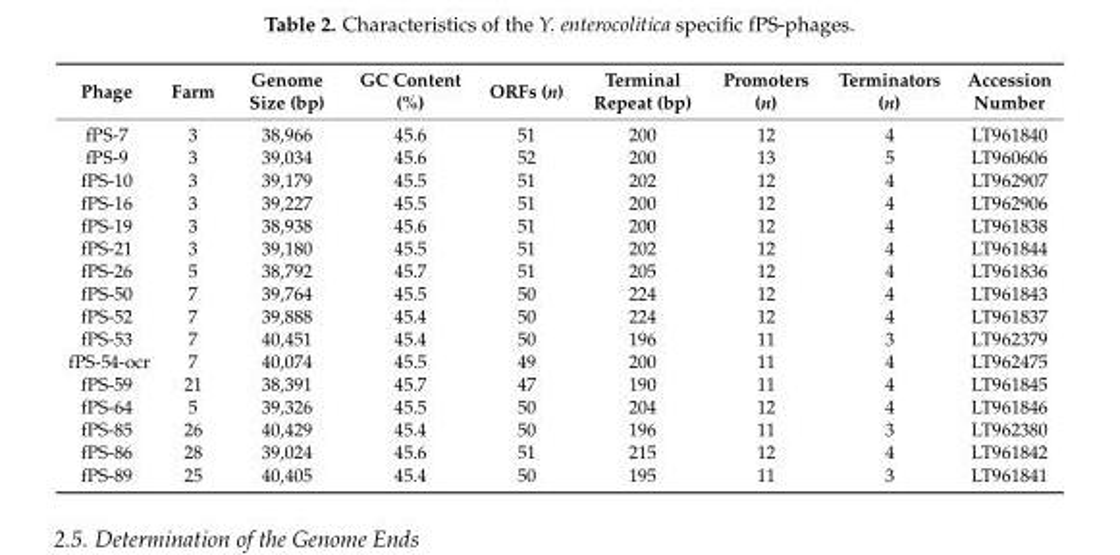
<table><thead><tr><td>Phage</td><td>Farm</td><td>Genome Size (bp)</td><td>GC Content (%)</td><td>ORFs (n)</td><td>Terminal Repeat (bp)</td><td>Promoters (n)</td><td>Terminators (n)</td><td>Accession Number</td></tr></thead><tbody><tr><td>fPS-7</td><td>3</td><td>38,966</td><td>45.6</td><td>51</td><td>200</td><td>12</td><td>4</td><td>LT961840</td></tr><tr><td>fPS-9</td><td>3</td><td>39,034</td><td>45.6</td><td>52</td><td>200</td><td>13</td><td>5</td><td>LT960606</td></tr><tr><td>fPS-10</td><td>3</td><td>39,179</td><td>45.5</td><td>51</td><td>202</td><td>12</td><td>4</td><td>LT962907</td></tr><tr><td>fPS-16</td><td>3</td><td>39,227</td><td>45.5</td><td>51</td><td>200</td><td>12</td><td>4</td><td>LT962906</td></tr><tr><td>fPS-19</td><td>3</td><td>38,938</td><td>45.6</td><td>51</td><td>200</td><td>12</td><td>4</td><td>LT961838</td></tr><tr><td>fPS-21</td><td>3</td><td>39,180</td><td>45.5</td><td>51</td><td>202</td><td>12</td><td>4</td><td>LT961844</td></tr><tr><td>fPS-26</td><td>5</td><td>38,792</td><td>45.7</td><td>51</td><td>205</td><td>12</td><td>4</td><td>LT961836</td></tr><tr><td>fPS-50</td><td>7</td><td>39,764</td><td>45.5</td><td>50</td><td>224</td><td>12</td><td>4</td><td>LT961843</td></tr><tr><td>fPS-52</td><td>7</td><td>39,888</td><td>45.4</td><td>50</td><td>224</td><td>12</td><td>4</td><td>LT961837</td></tr><tr><td>fPS-53</td><td>7</td><td>40,451</td><td>45.4</td><td>50</td><td>196</td><td>11</td><td>3</td><td>LT962379</td></tr><tr><td>fPS-54-ocr</td><td>7</td><td>40,074</td><td>45.5</td><td>49</td><td>200</td><td>11</td><td>4</td><td>LT962475</td></tr><tr><td>fPS-59</td><td>21</td><td>38,391</td><td>45.7</td><td>47</td><td>190</td><td>11</td><td>4</td><td>LT961845</td></tr><tr><td>fPS-64</td><td>5</td><td>39,326</td><td>45.5</td><td>50</td><td>204</td><td>12</td><td>4</td><td>LT961846</td></tr><tr><td>fPS-85</td><td>26</td><td>40,429</td><td>45.4</td><td>50</td><td>196</td><td>11</td><td>3</td><td>LT962380</td></tr><tr><td>fPS-86</td><td>28</td><td>39,024</td><td>45.6</td><td>51</td><td>215</td><td>12</td><td>4</td><td>LT961842</td></tr><tr><td>fPS-89</td><td>25</td><td>40,405</td><td>45.4</td><td>50</td><td>195</td><td>11</td><td>3</td><td>LT961841</td></tr></tbody></table>